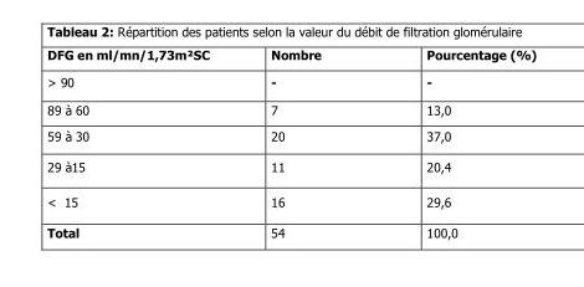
<table><thead><tr><td>DFG en ml/mn/1,73m²SC</td><td>Nombre</td><td>Pourcentage (%)</td></tr></thead><tbody><tr><td>&gt; 90</td><td>-</td><td>-</td></tr><tr><td>89 à 60</td><td>7</td><td>13,0</td></tr><tr><td>59 à 30</td><td>20</td><td>37,0</td></tr><tr><td>29 à15</td><td>11</td><td>20,4</td></tr><tr><td>&lt; 15</td><td>16</td><td>29,6</td></tr><tr><td>Total</td><td>54</td><td>100,0</td></tr></tbody></table>